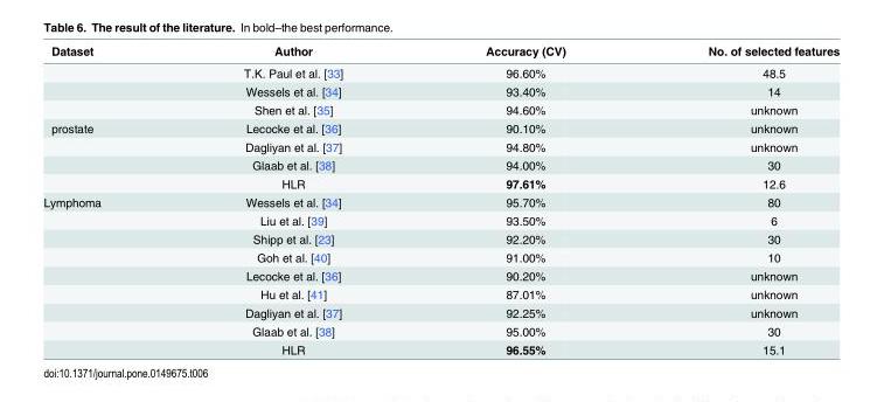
<table><thead><tr><td>Dataset</td><td>Author</td><td>Accuracy (CV)</td><td>No. of selected features</td></tr></thead><tbody><tr><td></td><td>T.K. Paul et al. [33]</td><td>96.60%</td><td>48.5</td></tr><tr><td></td><td>Wessels et al. [34]</td><td>93.40%</td><td>14</td></tr><tr><td></td><td>Shen et al. [35]</td><td>94.60%</td><td>unknown</td></tr><tr><td rowspan="4">prostate</td><td>Lecocke et al. [36]</td><td>90.10%</td><td>unknown</td></tr><tr><td>Dagliyan et al. [37]</td><td>94.80%</td><td>unknown</td></tr><tr><td>Glaab et al. [38]</td><td>94.00%</td><td>30</td></tr><tr><td>HLR</td><td>97.61%</td><td>12.6</td></tr><tr><td rowspan="9">Lymphoma</td><td>Wessels et al. [34]</td><td>95.70%</td><td>80</td></tr><tr><td>Liu et al. [39]</td><td>93.50%</td><td>6</td></tr><tr><td>Shipp et al. [23]</td><td>92.20%</td><td>30</td></tr><tr><td>Goh et al. [40]</td><td>91.00%</td><td>10</td></tr><tr><td>Lecocke et al. [36]</td><td>90.20%</td><td>unknown</td></tr><tr><td>Hu et al. [41]</td><td>87.01%</td><td>unknown</td></tr><tr><td>Dagliyan et al. [37]</td><td>92.25%</td><td>unknown</td></tr><tr><td>Glaab et al. [38]</td><td>95.00%</td><td>30</td></tr><tr><td>HLR</td><td>96.55%</td><td>15.1</td></tr></tbody></table>